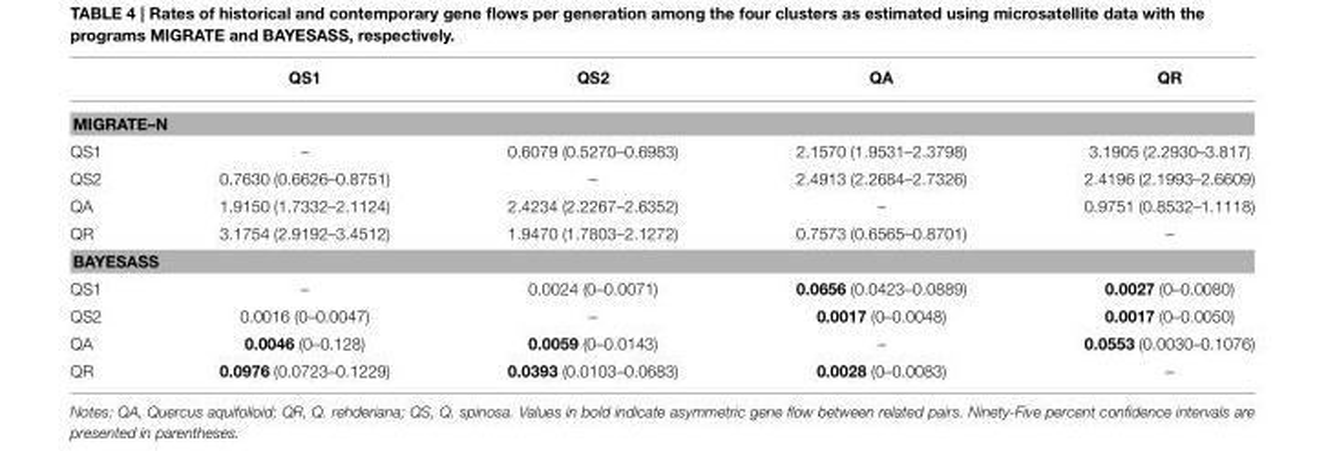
<table><thead><tr><td></td><td>QS1</td><td>QS2</td><td>QA</td><td>QR</td></tr></thead><tbody><tr><td colspan="5">MIGRATE–N</td></tr><tr><td>QS1</td><td>–</td><td>0.6079 (0.5270–0.6983)</td><td>2.1570 (1.9531–2.3798)</td><td>3.1905 (2.2930–3.817)</td></tr><tr><td>QS2</td><td>0.7630 (0.6626–0.8751)</td><td>–</td><td>2.4913 (2.2684–2.7326)</td><td>2.4196 (2.1993–2.6609)</td></tr><tr><td>QA</td><td>1.9150 (1.7332–2.1124)</td><td>2.4234 (2.2267–2.6352)</td><td>–</td><td>0.9751 (0.8532–1.1118)</td></tr><tr><td>QR</td><td>3.1754 (2.9192–3.4512)</td><td>1.9470 (1.7803–2.1272)</td><td>0.7573 (0.6565–0.8701)</td><td>–</td></tr><tr><td colspan="5">BAYESASS</td></tr><tr><td>QS1</td><td>–</td><td>0.0024 (0–0.0071)</td><td>0.0656 (0.0423–0.0889)</td><td>0.0027 (0–0.0080)</td></tr><tr><td>QS2</td><td>0.0016 (0–0.0047)</td><td>–</td><td>0.0017 (0–0.0048)</td><td>0.0017 (0–0.0050)</td></tr><tr><td>QA</td><td>0.0046 (0–0.128)</td><td>0.0059 (0–0.0143)</td><td>–</td><td>0.0553 (0.0030–0.1076)</td></tr><tr><td>QR</td><td>0.0976 (0.0723–0.1229)</td><td>0.0393 (0.0103–0.0683)</td><td>0.0028 (0–0.0083)</td><td>–</td></tr></tbody></table>